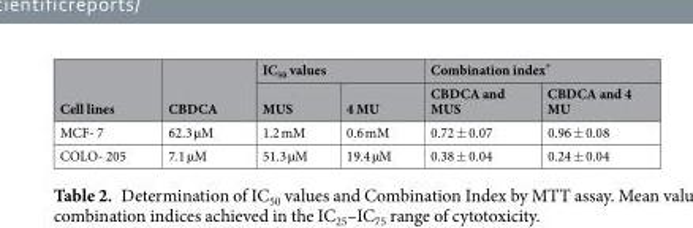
<table><thead><tr><td rowspan="2">Cell lines</td><td rowspan="2">CBDCA</td><td colspan="2">IC<sub>50</sub> values</td><td colspan="2">Combination index*</td></tr><tr><td>MUS</td><td>4 MU</td><td>CBDCA and MUS</td><td>CBDCA and 4 MU</td></tr></thead><tbody><tr><td>MCF- 7</td><td>62.3 µM</td><td>1.2 mM</td><td>0.6 mM</td><td>0.72 ± 0.07</td><td>0.96 ± 0.08</td></tr><tr><td>COLO- 205</td><td>7.1 µM</td><td>51.3 µM</td><td>19.4 µM</td><td>0.38 ± 0.04</td><td>0.24 ± 0.04</td></tr></tbody></table>